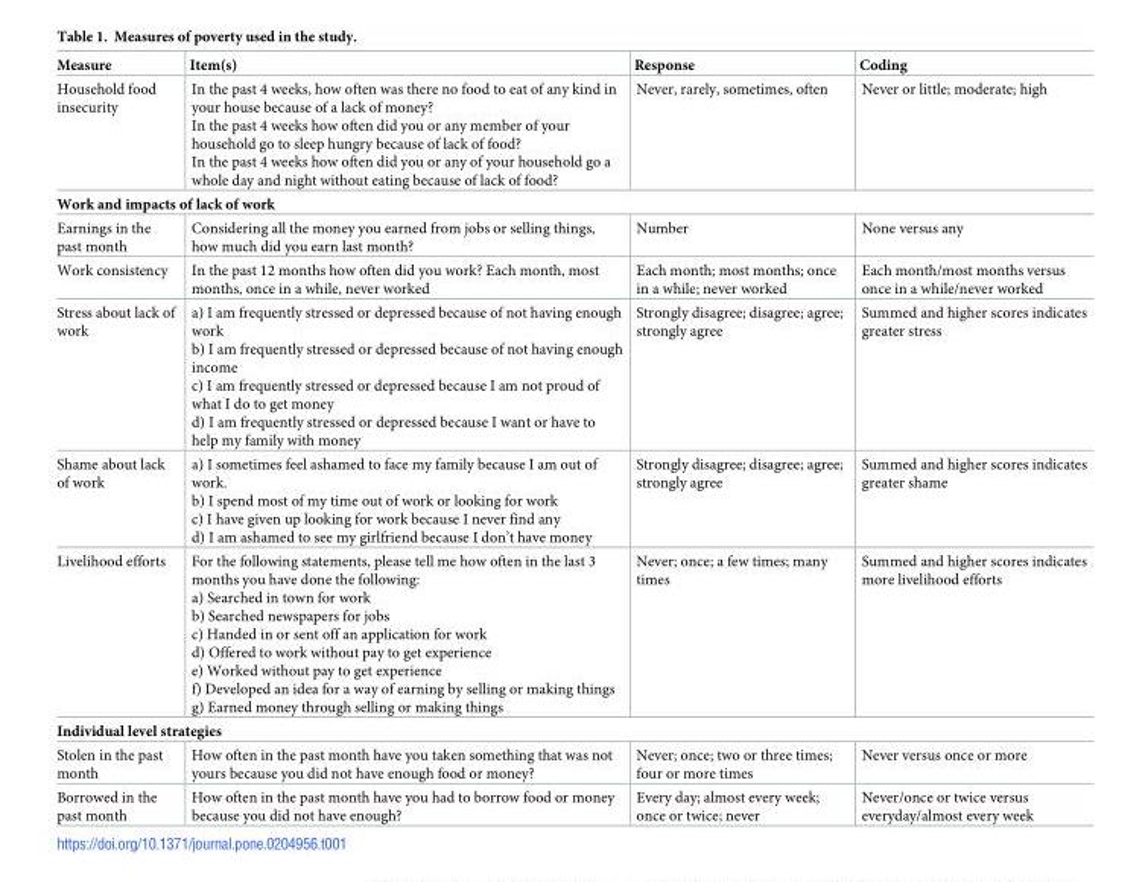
<table><thead><tr><td>Measure</td><td>Item(s)</td><td>Response</td><td>Coding</td></tr></thead><tbody><tr><td>Household food insecurity</td><td>In the past 4 weeks, how often was there no food to eat of any kind in your house because of a lack of money? In the past 4 weeks how often did you or any member of your household go to sleep hungry because of lack of food? In the past 4 weeks how often did you or any of your household go a whole day and night without eating because of lack of food?</td><td>Never, rarely, sometimes, often</td><td>Never or little; moderate; high</td></tr><tr><td colspan="4">Work and impacts of lack of work</td></tr><tr><td>Earnings in the past month</td><td>Considering all the money you earned from jobs or selling things, how much did you earn last month?</td><td>Number</td><td>None versus any</td></tr><tr><td>Work consistency</td><td>In the past 12 months how often did you work? Each month, most months, once in a while, never worked</td><td>Each month; most months; once in a while; never worked</td><td>Each month/most months versus once in a while/never worked</td></tr><tr><td>Stress about lack of work</td><td>a) I am frequently stressed or depressed because of not having enough work b) I am frequently stressed or depressed because of not having enough income c) I am frequently stressed or depressed because I am not proud of what I do to get money d) I am frequently stressed or depressed because I want or have to help my family with money</td><td>Strongly disagree; disagree; agree; strongly agree</td><td>Summed and higher scores indicates greater stress</td></tr><tr><td>Shame about lack of work</td><td>a) I sometimes feel ashamed to face my family because I am out of work. b) I spend most of my time out of work or looking for work c) I have given up looking for work because I never find any d) I am ashamed to see my girlfriend because I don’t have money</td><td>Strongly disagree; disagree; agree; strongly agree</td><td>Summed and higher scores indicates greater shame</td></tr><tr><td>Livelihood efforts</td><td>For the following statements, please tell me how often in the last 3 months you have done the following: a) Searched in town for work b) Searched newspapers for jobs c) Handed in or sent off an application for work d) Offered to work without pay to get experience e) Worked without pay to get experience f) Developed an idea for a way of earning by selling or making things g) Earned money through selling or making things</td><td>Never; once; a few times; many times</td><td>Summed and higher scores indicates more livelihood efforts</td></tr><tr><td colspan="4">Individual level strategies</td></tr><tr><td>Stolen in the past month</td><td>How often in the past month have you taken something that was not yours because you did not have enough food or money?</td><td>Never; once; two or three times; four or more times</td><td>Never versus once or more</td></tr><tr><td>Borrowed in the past month</td><td>How often in the past month have you had to borrow food or money because you did not have enough?</td><td>Every day; almost every week; once or twice; never</td><td>Never/once or twice versus everyday/almost every week</td></tr></tbody></table>